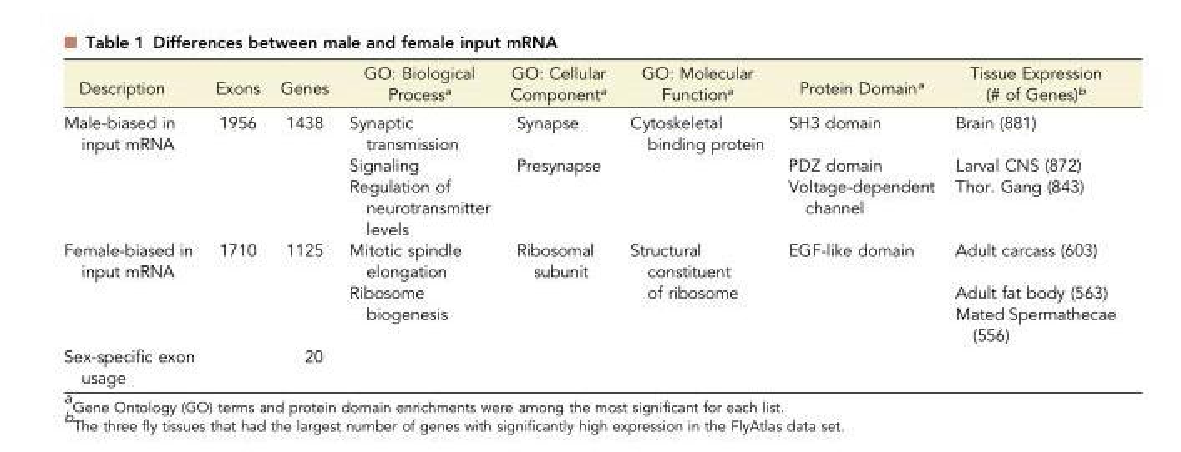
<table><thead><tr><td>Description</td><td>Exons</td><td>Genes</td><td>GO: Biological Process<sup>a</sup></td><td>GO: Cellular Component<sup>a</sup></td><td>GO: Molecular Function<sup>a</sup></td><td>Protein Domain<sup>a</sup></td><td>Tissue Expression (# of Genes)<sup>b</sup></td></tr></thead><tbody><tr><td rowspan="3">Male-biased in input mRNA</td><td rowspan="3">1956</td><td rowspan="3">1438</td><td>Synaptic transmission</td><td>Synapse</td><td rowspan="3">Cytoskeletal binding protein</td><td>SH3 domain</td><td>Brain (881)</td></tr><tr><td>Signaling</td><td rowspan="2">Presynapse</td><td>PDZ domain</td><td>Larval CNS (872)</td></tr><tr><td>Regulation of neurotransmitter levels</td><td>Voltage-dependent channel</td><td>Thor. Gang (843)</td></tr><tr><td rowspan="3">Female-biased in input mRNA</td><td rowspan="3">1710</td><td rowspan="3">1125</td><td>Mitotic spindle elongation</td><td rowspan="3">Ribosomal subunit</td><td rowspan="3">Structural constituent of ribosome</td><td rowspan="3">EGF-like domain</td><td>Adult carcass (603)</td></tr><tr><td rowspan="2">Ribosome biogenesis</td><td>Adult fat body (563)</td></tr><tr><td>Mated Spermathecae (556)</td></tr><tr><td>Sex-specific exon usage</td><td></td><td>20</td><td></td><td></td><td></td><td></td><td></td></tr></tbody></table>